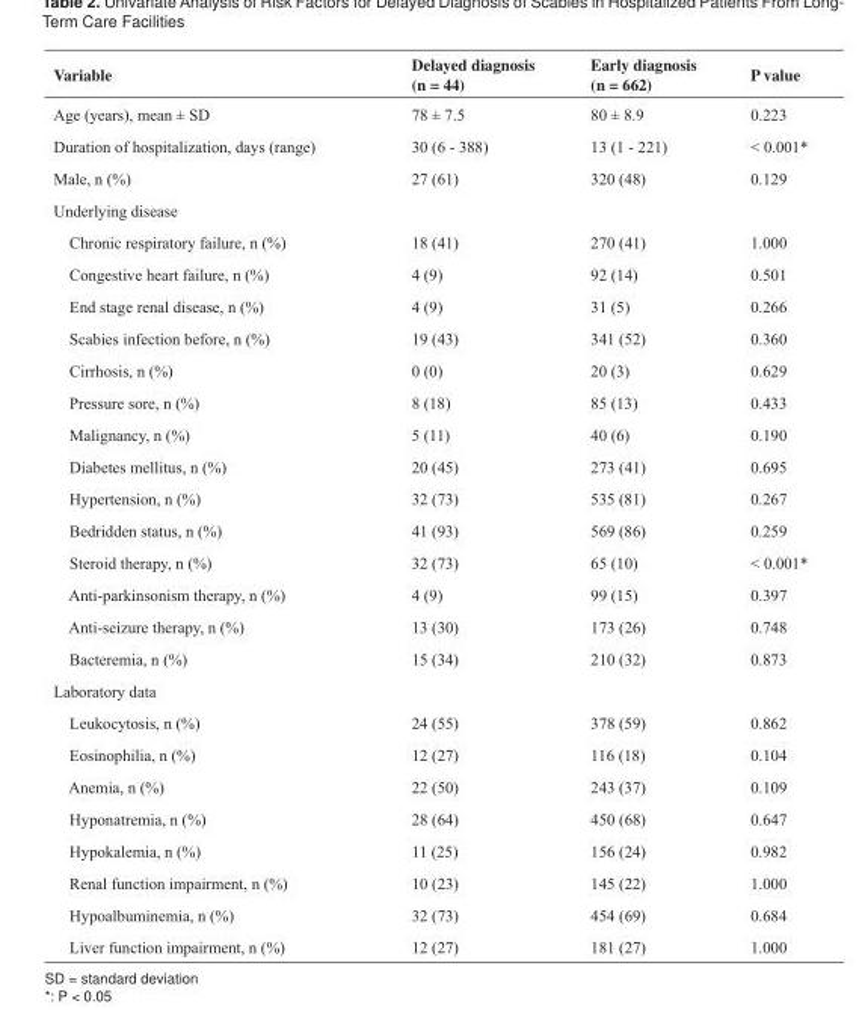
<table><thead><tr><td>Variable</td><td>Delayed diagnosis (n = 44)</td><td>Early diagnosis (n = 662)</td><td>P value</td></tr></thead><tbody><tr><td>Age (years), mean ± SD</td><td>78 ± 7.5</td><td>80 ± 8.9</td><td>0.223</td></tr><tr><td>Duration of hospitalization, days (range)</td><td>30 (6 - 388)</td><td>13 (1 - 221)</td><td>&lt; 0.001*</td></tr><tr><td>Male, n (%)</td><td>27 (61)</td><td>320 (48)</td><td>0.129</td></tr><tr><td colspan="4">Underlying disease</td></tr><tr><td>Chronic respiratory failure, n (%)</td><td>18 (41)</td><td>270 (41)</td><td>1.000</td></tr><tr><td>Congestive heart failure, n (%)</td><td>4 (9)</td><td>92 (14)</td><td>0.501</td></tr><tr><td>End stage renal disease, n (%)</td><td>4 (9)</td><td>31 (5)</td><td>0.266</td></tr><tr><td>Scabies infection before, n (%)</td><td>19 (43)</td><td>341 (52)</td><td>0.360</td></tr><tr><td>Cirrhosis, n (%)</td><td>0 (0)</td><td>20 (3)</td><td>0.629</td></tr><tr><td>Pressure sore, n (%)</td><td>8 (18)</td><td>85 (13)</td><td>0.433</td></tr><tr><td>Malignancy, n (%)</td><td>5 (11)</td><td>40 (6)</td><td>0.190</td></tr><tr><td>Diabetes mellitus, n (%)</td><td>20 (45)</td><td>273 (41)</td><td>0.695</td></tr><tr><td>Hypertension, n (%)</td><td>32 (73)</td><td>535 (81)</td><td>0.267</td></tr><tr><td>Bedridden status, n (%)</td><td>41 (93)</td><td>569 (86)</td><td>0.259</td></tr><tr><td>Steroid therapy, n (%)</td><td>32 (73)</td><td>65 (10)</td><td>&lt; 0.001*</td></tr><tr><td>Anti-parkinsonism therapy, n (%)</td><td>4 (9)</td><td>99 (15)</td><td>0.397</td></tr><tr><td>Anti-seizure therapy, n (%)</td><td>13 (30)</td><td>173 (26)</td><td>0.748</td></tr><tr><td>Bacteremia, n (%)</td><td>15 (34)</td><td>210 (32)</td><td>0.873</td></tr><tr><td colspan="4">Laboratory data</td></tr><tr><td>Leukocytosis, n (%)</td><td>24 (55)</td><td>378 (59)</td><td>0.862</td></tr><tr><td>Eosinophilia, n (%)</td><td>12 (27)</td><td>116 (18)</td><td>0.104</td></tr><tr><td>Anemia, n (%)</td><td>22 (50)</td><td>243 (37)</td><td>0.109</td></tr><tr><td>Hyponatremia, n (%)</td><td>28 (64)</td><td>450 (68)</td><td>0.647</td></tr><tr><td>Hypokalemia, n (%)</td><td>11 (25)</td><td>156 (24)</td><td>0.982</td></tr><tr><td>Renal function impairment, n (%)</td><td>10 (23)</td><td>145 (22)</td><td>1.000</td></tr><tr><td>Hypoalbuminemia, n (%)</td><td>32 (73)</td><td>454 (69)</td><td>0.684</td></tr><tr><td>Liver function impairment, n (%)</td><td>12 (27)</td><td>181 (27)</td><td>1.000</td></tr></tbody></table>